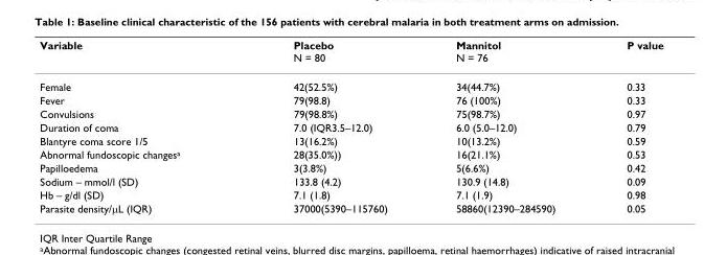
<table><thead><tr><td>Variable</td><td>Placebo N = 80</td><td>Mannitol N = 76</td><td>P value</td></tr></thead><tbody><tr><td>Female</td><td>42(52.5%)</td><td>34(44.7%)</td><td>0.33</td></tr><tr><td>Fever</td><td>79(98.8)</td><td>76 (100%)</td><td>0.33</td></tr><tr><td>Convulsions</td><td>79(98.8%)</td><td>75(98.7%)</td><td>0.97</td></tr><tr><td>Duration of coma</td><td>7.0 (IQR3.5–12.0)</td><td>6.0 (5.0–12.0)</td><td>0.79</td></tr><tr><td>Blantyre coma score 1/5</td><td>13(16.2%)</td><td>10(13.2%)</td><td>0.59</td></tr><tr><td>Abnormal fundoscopic changes<sup>a</sup></td><td>28(35.0%))</td><td>16(21.1%)</td><td>0.53</td></tr><tr><td>Papilloedema</td><td>3(3.8%)</td><td>5(6.6%)</td><td>0.42</td></tr><tr><td>Sodium – mmol/l (SD)</td><td>133.8 (4.2)</td><td>130.9 (14.8)</td><td>0.09</td></tr><tr><td>Hb – g/dl (SD)</td><td>7.1 (1.8)</td><td>7.1 (1.9)</td><td>0.98</td></tr><tr><td>Parasite density/µL (IQR)</td><td>37000(5390–115760)</td><td>58860(12390–284590)</td><td>0.05</td></tr></tbody></table>